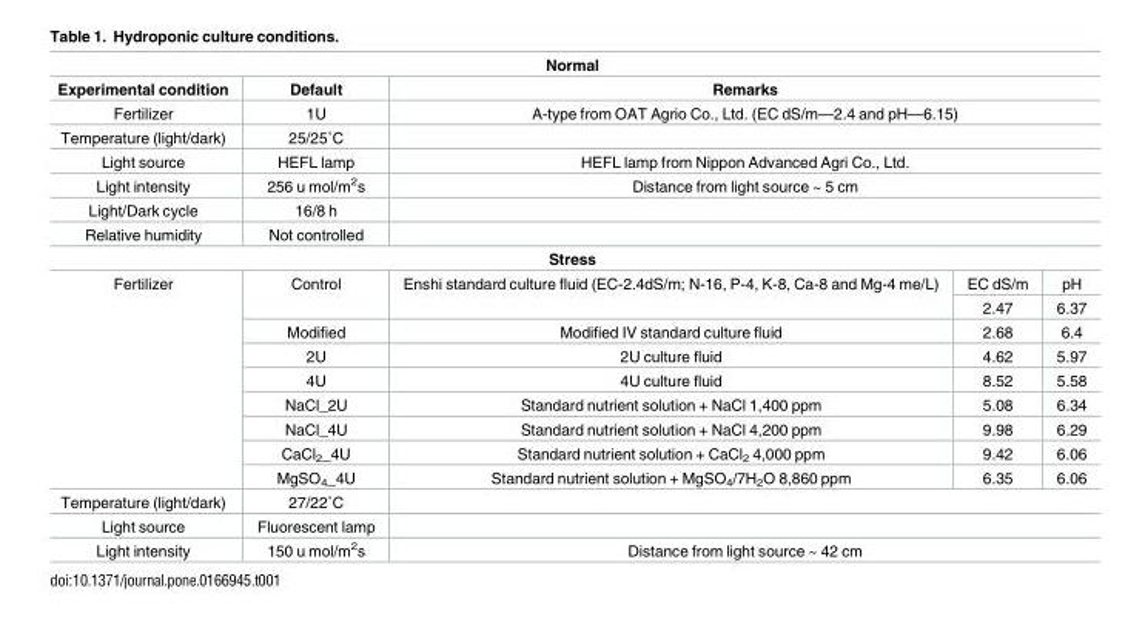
<table><tbody><tr><td colspan="5">Normal</td></tr><tr><td>Experimental condition</td><td>Default</td><td colspan="3">Remarks</td></tr><tr><td>Fertilizer</td><td>1U</td><td colspan="3">A-type from OAT Agrio Co., Ltd. (EC dS/m—2.4 and pH—6.15)</td></tr><tr><td>Temperature (light/dark)</td><td>25/25˚C</td><td colspan="3"></td></tr><tr><td>Light source</td><td>HEFL lamp</td><td colspan="3">HEFL lamp from Nippon Advanced Agri Co., Ltd.</td></tr><tr><td>Light intensity</td><td>256 u mol/m<sup>2</sup>s</td><td colspan="3">Distance from light source ~ 5 cm</td></tr><tr><td>Light/Dark cycle</td><td>16/8 h</td><td colspan="3"></td></tr><tr><td>Relative humidity</td><td>Not controlled</td><td colspan="3"></td></tr><tr><td colspan="5">Stress</td></tr><tr><td rowspan="9">Fertilizer</td><td rowspan="2">Control</td><td rowspan="2">Enshi standard culture fluid (EC-2.4dS/m; N-16, P-4, K-8, Ca-8 and Mg-4 me/L)</td><td>EC dS/m</td><td>pH</td></tr><tr><td>2.47</td><td>6.37</td></tr><tr><td>Modified</td><td>Modified IV standard culture fluid</td><td>2.68</td><td>6.4</td></tr><tr><td>2U</td><td>2U culture fluid</td><td>4.62</td><td>5.97</td></tr><tr><td>4U</td><td>4U culture fluid</td><td>8.52</td><td>5.58</td></tr><tr><td>NaCl_2U</td><td>Standard nutrient solution + NaCl 1,400 ppm</td><td>5.08</td><td>6.34</td></tr><tr><td>NaCl_4U</td><td>Standard nutrient solution + NaCl 4,200 ppm</td><td>9.98</td><td>6.29</td></tr><tr><td>CaCl2_4U</td><td>Standard nutrient solution + CaCl<sub>2</sub> 4,000 ppm</td><td>9.42</td><td>6.06</td></tr><tr><td>MgSO4_4U</td><td>Standard nutrient solution + MgSO<sub>4</sub>/7H<sub>2</sub>O 8,860 ppm</td><td>6.35</td><td>6.06</td></tr><tr><td>Temperature (light/dark)</td><td>27/22˚C</td><td colspan="3"></td></tr><tr><td>Light source</td><td>Fluorescent lamp</td><td colspan="3"></td></tr><tr><td>Light intensity</td><td>150 u mol/m<sup>2</sup>s</td><td colspan="3">Distance from light source ~ 42 cm</td></tr></tbody></table>